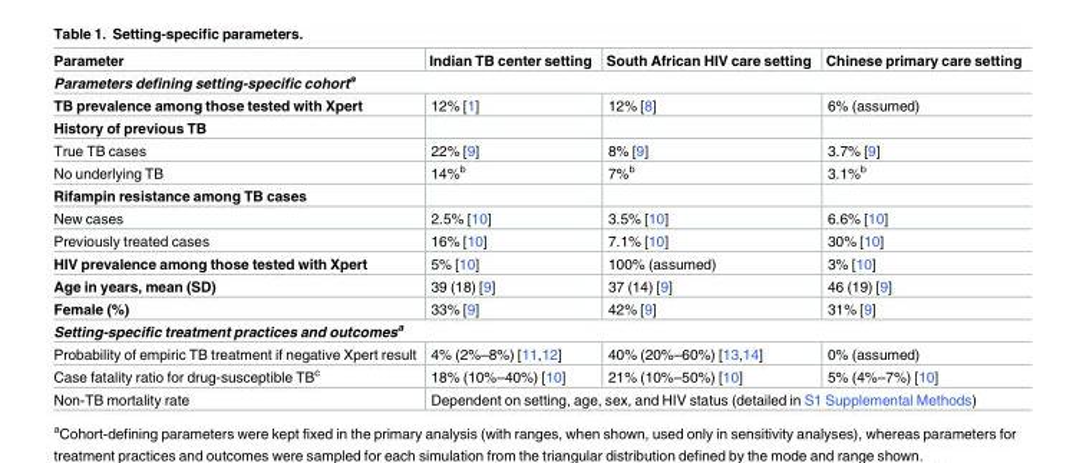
<table><thead><tr><td>Parameter</td><td>Indian TB center setting</td><td>South African HIV care setting</td><td>Chinese primary care setting</td></tr></thead><tbody><tr><td colspan="4">Parameters defining setting-specific cohort<sup>a</sup></td></tr><tr><td>TB prevalence among those tested with Xpert</td><td>12% [1]</td><td>12% [8]</td><td>6% (assumed)</td></tr><tr><td colspan="4">History of previous TB</td></tr><tr><td>True TB cases</td><td>22% [9]</td><td>8% [9]</td><td>3.7% [9]</td></tr><tr><td>No underlying TB</td><td>14%<sup>b</sup></td><td>7%<sup>b</sup></td><td>3.1%<sup>b</sup></td></tr><tr><td colspan="4">Rifampin resistance among TB cases</td></tr><tr><td>New cases</td><td>2.5% [10]</td><td>3.5% [10]</td><td>6.6% [10]</td></tr><tr><td>Previously treated cases</td><td>16% [10]</td><td>7.1% [10]</td><td>30% [10]</td></tr><tr><td>HIV prevalence among those tested with Xpert</td><td>5% [10]</td><td>100% (assumed)</td><td>3% [10]</td></tr><tr><td>Age in years, mean (SD)</td><td>39 (18) [9]</td><td>37 (14) [9]</td><td>46 (19) [9]</td></tr><tr><td>Female (%)</td><td>33% [9]</td><td>42% [9]</td><td>31% [9]</td></tr><tr><td colspan="4">Setting-specific treatment practices and outcomes<sup>a</sup></td></tr><tr><td>Probability of empiric TB treatment if negative Xpert result</td><td>4% (2%–8%) [11,12]</td><td>40% (20%–60%) [13,14]</td><td>0% (assumed)</td></tr><tr><td>Case fatality ratio for drug-susceptible TB<sup>c</sup></td><td>18% (10%–40%) [10]</td><td>21% (10%–50%) [10]</td><td>5% (4%–7%) [10]</td></tr><tr><td>Non-TB mortality rate</td><td colspan="3">Dependent on setting, age, sex, and HIV status (detailed in S1 Supplemental Methods)</td></tr></tbody></table>